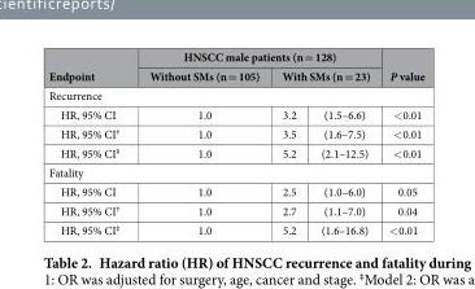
<table><thead><tr><td rowspan="2">Endpoint</td><td colspan="3">HNSCC male patients (n = 128)</td><td rowspan="2">P value</td></tr><tr><td>Without SMs (n = 105)</td><td colspan="2">With SMs (n = 23)</td></tr><tr><td colspan="5">Recurrence</td></tr><tr><td>HR, 95% CI</td><td>1.0</td><td>3.2</td><td>(1.5–6.6)</td><td>&lt; 0.01</td></tr></thead><tbody><tr><td>HR, 95% CI†</td><td>1.0</td><td>3.5</td><td>(1.6–7.5)</td><td>&lt; 0.01</td></tr><tr><td>HR, 95% CI‡</td><td>1.0</td><td>5.2</td><td>(2.1–12.5)</td><td>&lt; 0.01</td></tr><tr><td colspan="5">Fatality</td></tr><tr><td>HR, 95% CI</td><td>1.0</td><td>2.5</td><td>(1.0–6.0)</td><td>0.05</td></tr><tr><td>HR, 95% CI†</td><td>1.0</td><td>2.7</td><td>(1.1–7.0)</td><td>0.04</td></tr><tr><td>HR, 95% CI‡</td><td>1.0</td><td>5.2</td><td>(1.6–16.8)</td><td>&lt; 0.01</td></tr></tbody></table>